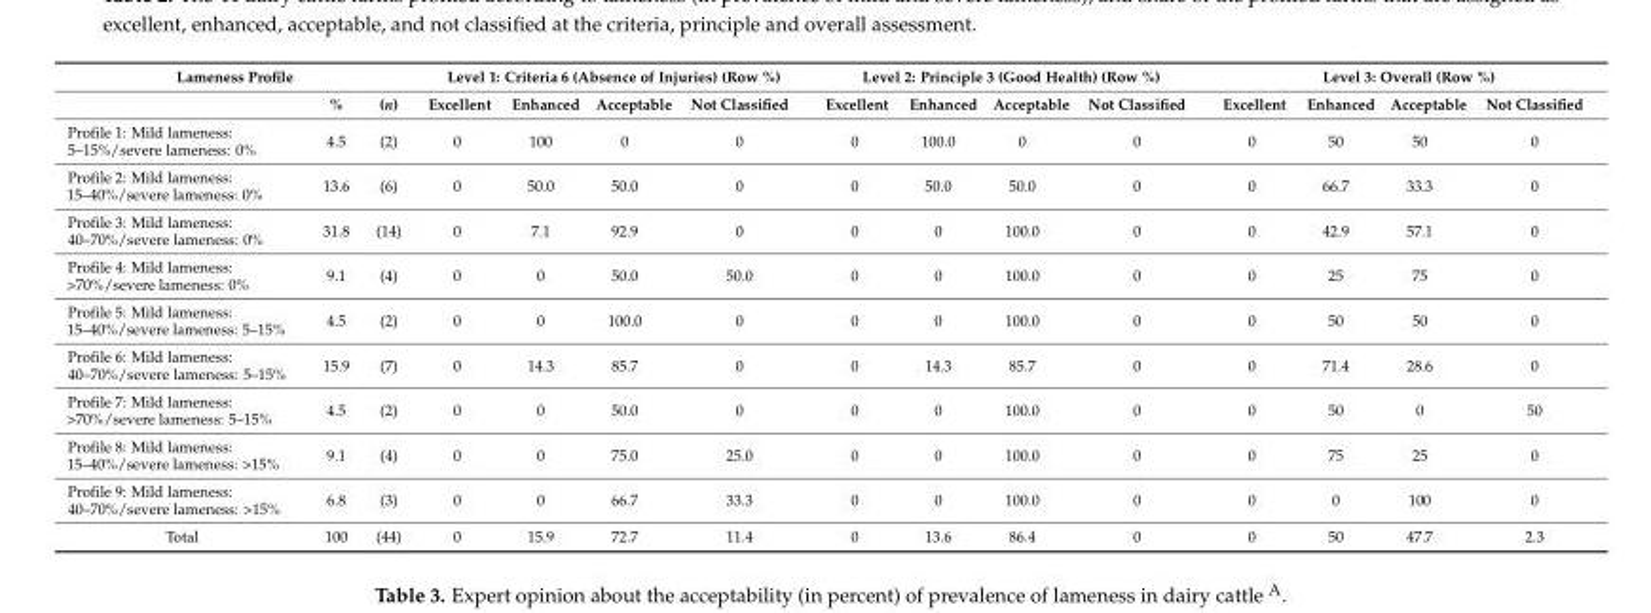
<table><thead><tr><td colspan="3">Lameness Profile</td><td colspan="4">Level 1: Criteria 6 (Absence of Injuries) (Row %)</td><td colspan="4">Level 2: Principle 3 (Good Health) (Row %)</td><td colspan="4">Level 3: Overall (Row %)</td></tr><tr><td></td><td>%</td><td>(n)</td><td>Excellent</td><td>Enhanced</td><td>Acceptable</td><td>Not Classified</td><td>Excellent</td><td>Enhanced</td><td>Acceptable</td><td>Not Classified</td><td>Excellent</td><td>Enhanced</td><td>Acceptable</td><td>Not Classified</td></tr></thead><tbody><tr><td>Profile 1: Mild lameness: 5–15%/severe lameness: 0%</td><td>4.5</td><td>(2)</td><td>0</td><td>100</td><td>0</td><td>0</td><td>0</td><td>100.0</td><td>0</td><td>0</td><td>0</td><td>50</td><td>50</td><td>0</td></tr><tr><td>Profile 2: Mild lameness: 15–40%/severe lameness: 0%</td><td>13.6</td><td>(6)</td><td>0</td><td>50.0</td><td>50.0</td><td>0</td><td>0</td><td>50.0</td><td>50.0</td><td>0</td><td>0</td><td>66.7</td><td>33.3</td><td>0</td></tr><tr><td>Profile 3: Mild lameness: 40–70%/severe lameness: 0%</td><td>31.8</td><td>(14)</td><td>0</td><td>7.1</td><td>92.9</td><td>0</td><td>0</td><td>0</td><td>100.0</td><td>0</td><td>0</td><td>42.9</td><td>57.1</td><td>0</td></tr><tr><td>Profile 4: Mild lameness: &gt;70%/severe lameness: 0%</td><td>9.1</td><td>(4)</td><td>0</td><td>0</td><td>50.0</td><td>50.0</td><td>0</td><td>0</td><td>100.0</td><td>0</td><td>0</td><td>25</td><td>75</td><td>0</td></tr><tr><td>Profile 5: Mild lameness: 15–40%/severe lameness: 5–15%</td><td>4.5</td><td>(2)</td><td>0</td><td>0</td><td>100.0</td><td>0</td><td>0</td><td>0</td><td>100.0</td><td>0</td><td>0</td><td>50</td><td>50</td><td>0</td></tr><tr><td>Profile 6: Mild lameness: 40–70%/severe lameness: 5–15%</td><td>15.9</td><td>(7)</td><td>0</td><td>14.3</td><td>85.7</td><td>0</td><td>0</td><td>14.3</td><td>85.7</td><td>0</td><td>0</td><td>71.4</td><td>28.6</td><td>0</td></tr><tr><td>Profile 7: Mild lameness: &gt;70%/severe lameness: 5–15%</td><td>4.5</td><td>(2)</td><td>0</td><td>0</td><td>50.0</td><td>0</td><td>0</td><td>0</td><td>100.0</td><td>0</td><td>0</td><td>50</td><td>0</td><td>50</td></tr><tr><td>Profile 8: Mild lameness: 15–40%/severe lameness: &gt;15%</td><td>9.1</td><td>(4)</td><td>0</td><td>0</td><td>75.0</td><td>25.0</td><td>0</td><td>0</td><td>100.0</td><td>0</td><td>0</td><td>75</td><td>25</td><td>0</td></tr><tr><td>Profile 9: Mild lameness: 40–70%/severe lameness: &gt;15%</td><td>6.8</td><td>(3)</td><td>0</td><td>0</td><td>66.7</td><td>33.3</td><td>0</td><td>0</td><td>100.0</td><td>0</td><td>0</td><td>0</td><td>100</td><td>0</td></tr><tr><td>Total</td><td>100</td><td>(44)</td><td>0</td><td>15.9</td><td>72.7</td><td>11.4</td><td>0</td><td>13.6</td><td>86.4</td><td>0</td><td>0</td><td>50</td><td>47.7</td><td>2.3</td></tr></tbody></table>